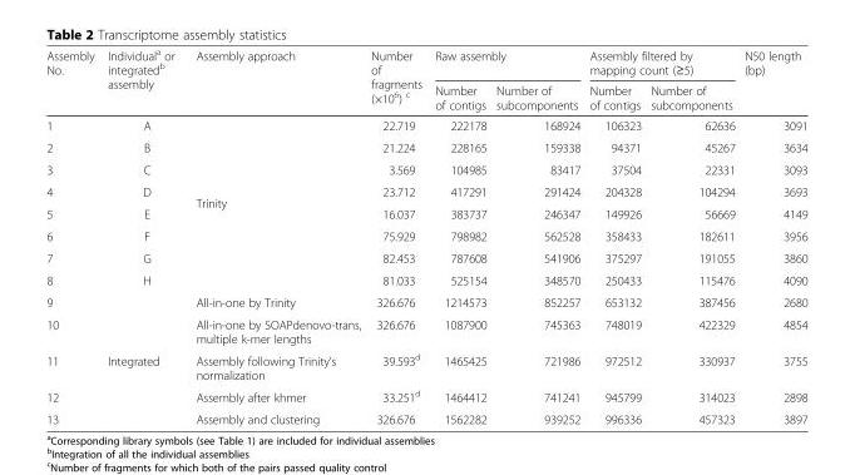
<table><thead><tr><td rowspan="2">Assembly No.</td><td rowspan="2">Individual<sup>a</sup> or integrated<sup>b</sup> assembly</td><td rowspan="2">Assembly approach</td><td rowspan="2">Number of fragments (×10<sup>6</sup>) <sup>c</sup></td><td colspan="2">Raw assembly</td><td colspan="2">Assembly filtered by mapping count (≥5)</td><td rowspan="2">N50 length (bp)</td></tr><tr><td>Number of contigs</td><td>Number of subcomponents</td><td>Number of contigs</td><td>Number of subcomponents</td></tr></thead><tbody><tr><td>1</td><td>A</td><td rowspan="8">Trinity</td><td>22.719</td><td>222178</td><td>168924</td><td>106323</td><td>62636</td><td>3091</td></tr><tr><td>2</td><td>B</td><td>21.224</td><td>228165</td><td>159338</td><td>94371</td><td>45267</td><td>3634</td></tr><tr><td>3</td><td>C</td><td>3.569</td><td>104985</td><td>83417</td><td>37504</td><td>22331</td><td>3093</td></tr><tr><td>4</td><td>D</td><td>23.712</td><td>417291</td><td>291424</td><td>204328</td><td>104294</td><td>3693</td></tr><tr><td>5</td><td>E</td><td>16.037</td><td>383737</td><td>246347</td><td>149926</td><td>56669</td><td>4149</td></tr><tr><td>6</td><td>F</td><td>75.929</td><td>798982</td><td>562528</td><td>358433</td><td>182611</td><td>3956</td></tr><tr><td>7</td><td>G</td><td>82.453</td><td>787608</td><td>541906</td><td>375297</td><td>191055</td><td>3860</td></tr><tr><td>8</td><td>H</td><td>81.033</td><td>525154</td><td>348570</td><td>250433</td><td>115476</td><td>4090</td></tr><tr><td>9</td><td rowspan="5">Integrated</td><td>All-in-one by Trinity</td><td>326.676</td><td>1214573</td><td>852257</td><td>653132</td><td>387456</td><td>2680</td></tr><tr><td>10</td><td>All-in-one by SOAPdenovo-trans, multiple k-mer lengths</td><td>326.676</td><td>1087900</td><td>745363</td><td>748019</td><td>422329</td><td>4854</td></tr><tr><td>11</td><td>Assembly following Trinity’s normalization</td><td>39.593<sup>d</sup></td><td>1465425</td><td>721986</td><td>972512</td><td>330937</td><td>3755</td></tr><tr><td>12</td><td>Assembly after khmer</td><td>33.251<sup>d</sup></td><td>1464412</td><td>741241</td><td>945799</td><td>314023</td><td>2898</td></tr><tr><td>13</td><td>Assembly and clustering</td><td>326.676</td><td>1562282</td><td>939252</td><td>996336</td><td>457323</td><td>3897</td></tr></tbody></table>